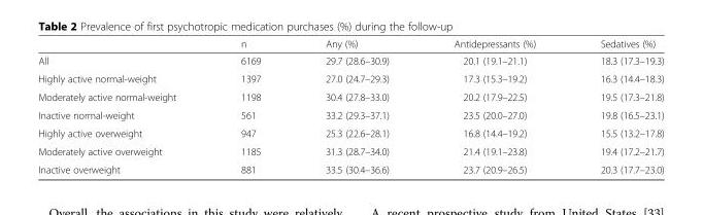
<table><thead><tr><td></td><td>n</td><td>Any (%)</td><td>Antidepressants (%)</td><td>Sedatives (%)</td></tr></thead><tbody><tr><td>All</td><td>6169</td><td>29.7 (28.6–30.9)</td><td>20.1 (19.1–21.1)</td><td>18.3 (17.3–19.3)</td></tr><tr><td>Highly active normal-weight</td><td>1397</td><td>27.0 (24.7–29.3)</td><td>17.3 (15.3–19.2)</td><td>16.3 (14.4–18.3)</td></tr><tr><td>Moderately active normal-weight</td><td>1198</td><td>30.4 (27.8–33.0)</td><td>20.2 (17.9–22.5)</td><td>19.5 (17.3–21.8)</td></tr><tr><td>Inactive normal-weight</td><td>561</td><td>33.2 (29.3–37.1)</td><td>23.5 (20.0–27.0)</td><td>19.8 (16.5–23.1)</td></tr><tr><td>Highly active overweight</td><td>947</td><td>25.3 (22.6–28.1)</td><td>16.8 (14.4–19.2)</td><td>15.5 (13.2–17.8)</td></tr><tr><td>Moderately active overweight</td><td>1185</td><td>31.3 (28.7–34.0)</td><td>21.4 (19.1–23.8)</td><td>19.4 (17.2–21.7)</td></tr><tr><td>Inactive overweight</td><td>881</td><td>33.5 (30.4–36.6)</td><td>23.7 (20.9–26.5)</td><td>20.3 (17.7–23.0)</td></tr></tbody></table>